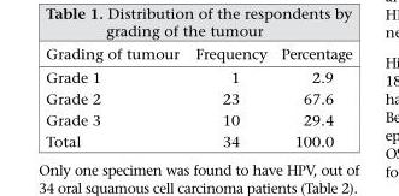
<table><thead><tr><td>Grading of tumour</td><td>Frequency</td><td>Percentage</td></tr></thead><tbody><tr><td>Grade 1</td><td>1</td><td>2.9</td></tr><tr><td>Grade 2</td><td>23</td><td>67.6</td></tr><tr><td>Grade 3</td><td>10</td><td>29.4</td></tr><tr><td>Total</td><td>34</td><td>100.0</td></tr></tbody></table>